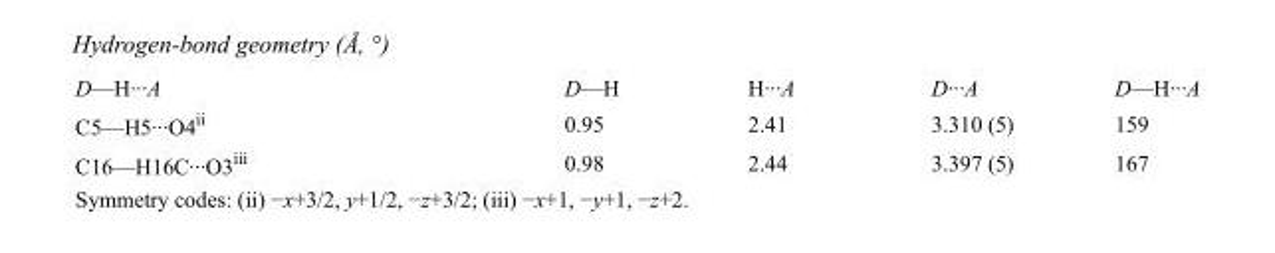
<table><tbody><tr><td>D—H···A</td><td>D—H</td><td>H···A</td><td>D···A</td><td>D—H···A</td></tr><tr><td>C5—H5···O4<sup>ii</sup></td><td>0.95</td><td>2.41</td><td>3.310 (5)</td><td>159</td></tr><tr><td>C16—H16C···O3<sup>iii</sup></td><td>0.98</td><td>2.44</td><td>3.397 (5)</td><td>167</td></tr></tbody></table>